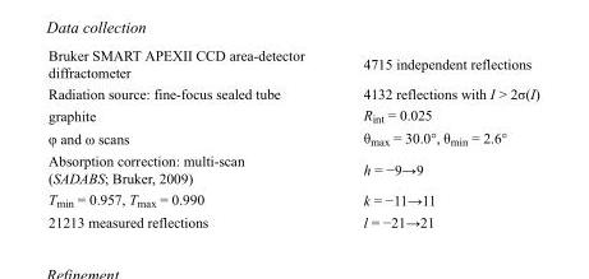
<table><tbody><tr><td>Bruker SMART APEXII CCD area-detector diffractometer</td><td>4715 independent reflections</td></tr><tr><td>Radiation source: fine-focus sealed tube</td><td>4132 reflections with I &gt; 2σ(I)</td></tr><tr><td>graphite</td><td>R<sub>int</sub> = 0.025</td></tr><tr><td>φ and ω scans</td><td>θ<sub>max</sub> = 30.0°, θ<sub>min</sub> = 2.6°</td></tr><tr><td>Absorption correction: multi-scan (SADABS; Bruker, 2009)</td><td>h = −9→9</td></tr><tr><td>T<sub>min</sub> = 0.957, T<sub>max</sub> = 0.990</td><td>k = −11→11</td></tr><tr><td>21213 measured reflections</td><td>l = −21→21</td></tr></tbody></table>